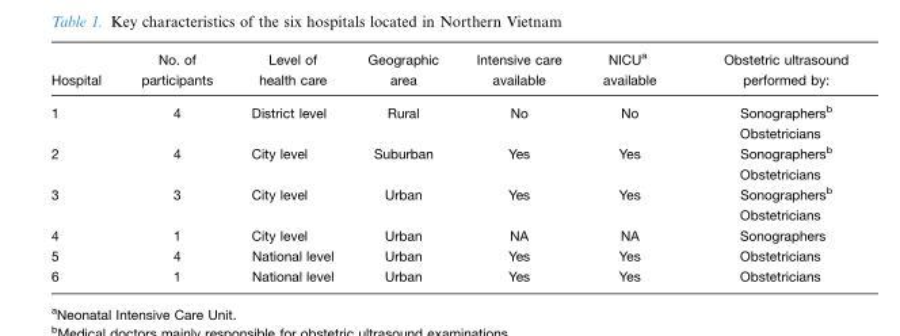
<table><thead><tr><td>Hospital</td><td>No. of participants</td><td>Level of health care</td><td>Geographic area</td><td>Intensive care available</td><td>NICU<sup>a</sup> available</td><td>Obstetric ultrasound performed by:</td></tr></thead><tbody><tr><td>1</td><td>4</td><td>District level</td><td>Rural</td><td>No</td><td>No</td><td>Sonographers<sup>b</sup> Obstetricians</td></tr><tr><td>2</td><td>4</td><td>City level</td><td>Suburban</td><td>Yes</td><td>Yes</td><td>Sonographers<sup>b</sup> Obstetricians</td></tr><tr><td>3</td><td>3</td><td>City level</td><td>Urban</td><td>Yes</td><td>Yes</td><td>Sonographers<sup>b</sup> Obstetricians</td></tr><tr><td>4</td><td>1</td><td>City level</td><td>Urban</td><td>NA</td><td>NA</td><td>Sonographers</td></tr><tr><td>5</td><td>4</td><td>National level</td><td>Urban</td><td>Yes</td><td>Yes</td><td>Obstetricians</td></tr><tr><td>6</td><td>1</td><td>National level</td><td>Urban</td><td>Yes</td><td>Yes</td><td>Obstetricians</td></tr></tbody></table>